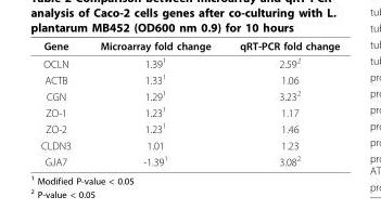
<table><thead><tr><td>Gene</td><td>Microarray fold change</td><td>qRT-PCR fold change</td></tr></thead><tbody><tr><td>OCLN</td><td>1.39<sup>1</sup></td><td>2.59<sup>2</sup></td></tr><tr><td>ACTB</td><td>1.33<sup>1</sup></td><td>1.06</td></tr><tr><td>CGN</td><td>1.29<sup>1</sup></td><td>3.23<sup>2</sup></td></tr><tr><td>ZO-1</td><td>1.23<sup>1</sup></td><td>1.17</td></tr><tr><td>ZO-2</td><td>1.23<sup>1</sup></td><td>1.46</td></tr><tr><td>CLDN3</td><td>1.01</td><td>1.23</td></tr><tr><td>GJA7</td><td>-1.39<sup>1</sup></td><td>3.08<sup>2</sup></td></tr></tbody></table>